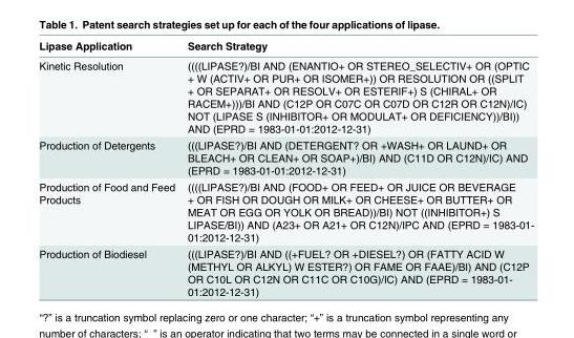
<table><thead><tr><td>Lipase Application</td><td>Search Strategy</td></tr></thead><tbody><tr><td>Kinetic Resolution</td><td>((((LIPASE?)/BI AND (ENANTIO+ OR STEREO_SELECTIV+ OR (OPTIC + W (ACTIV+ OR PUR+ OR ISOMER+)) OR RESOLUTION OR ((SPLIT + OR SEPARAT+ OR RESOLV+ OR ESTERIF+) S (CHIRAL+ OR RACEM+)))/BI AND (C12P OR C07C OR C07D OR C12R OR C12N)/IC) NOT (LIPASE S (INHIBITOR+ OR MODULAT+ OR DEFICIENCY))/BI)) AND (EPRD = 1983-01-01:2012-12-31)</td></tr><tr><td>Production of Detergents</td><td>(((LIPASE?)/BI AND (DETERGENT? OR +WASH+ OR LAUND+ OR BLEACH+ OR CLEAN+ OR SOAP+)/BI) AND (C11D OR C12N)/IC) AND (EPRD = 1983-01-01:2012-12-31)</td></tr><tr><td>Production of Food and Feed Products</td><td>((((LIPASE?)/BI AND (FOOD+ OR FEED+ OR JUICE OR BEVERAGE + OR FISH OR DOUGH OR MILK+ OR CHEESE+ OR BUTTER+ OR MEAT OR EGG OR YOLK OR BREAD))/BI) NOT ((INHIBITOR+) S LIPASE/BI)) AND (A23+ OR A21+ OR C12N)/IPC AND (EPRD = 1983-01- 01:2012-12-31)</td></tr><tr><td>Production of Biodiesel</td><td>(((LIPASE?)/BI AND ((+FUEL? OR +DIESEL?) OR (FATTY ACID W (METHYL OR ALKYL) W ESTER?) OR FAME OR FAAE)/BI) AND (C12P OR C10L OR C12N OR C11C OR C10G)/IC) AND (EPRD = 1983-01- 01:2012-12-31)</td></tr></tbody></table>